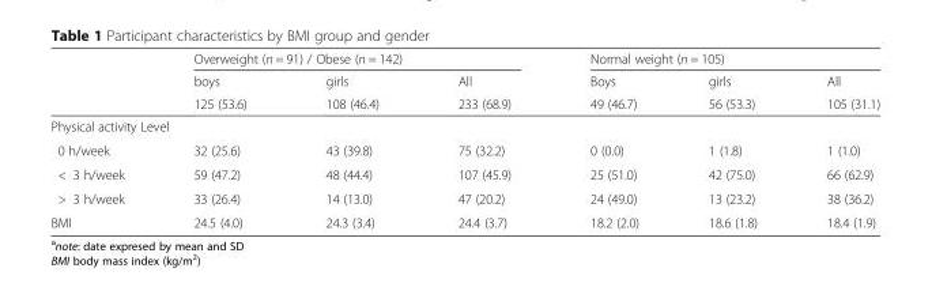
<table><thead><tr><td rowspan="3"></td><td colspan="3">Overweight (n = 91) / Obese (n = 142)</td><td colspan="3">Normal weight (n = 105)</td></tr><tr><td rowspan="2">boys 125 (53.6)</td><td rowspan="2">girls 108 (46.4)</td><td rowspan="2">All 233 (68.9)</td><td rowspan="2">Boys 49 (46.7)</td><td rowspan="2">girls 56 (53.3)</td><td rowspan="2">All 105 (31.1)</td></tr><tr></tr></thead><tbody><tr><td colspan="7">Physical activity Level</td></tr><tr><td>0 h/week</td><td>32 (25.6)</td><td>43 (39.8)</td><td>75 (32.2)</td><td>0 (0.0)</td><td>1 (1.8)</td><td>1 (1.0)</td></tr><tr><td>&lt; 3 h/week</td><td>59 (47.2)</td><td>48 (44.4)</td><td>107 (45.9)</td><td>25 (51.0)</td><td>42 (75.0)</td><td>66 (62.9)</td></tr><tr><td>&gt; 3 h/week</td><td>33 (26.4)</td><td>14 (13.0)</td><td>47 (20.2)</td><td>24 (49.0)</td><td>13 (23.2)</td><td>38 (36.2)</td></tr><tr><td>BMI</td><td>24.5 (4.0)</td><td>24.3 (3.4)</td><td>24.4 (3.7)</td><td>18.2 (2.0)</td><td>18.6 (1.8)</td><td>18.4 (1.9)</td></tr></tbody></table>